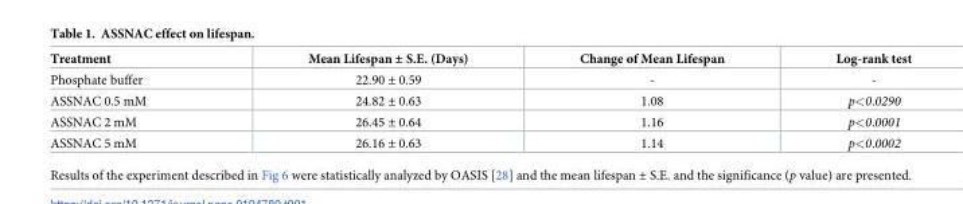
<table><thead><tr><td>Treatment</td><td>Mean Lifespan ± S.E. (Days)</td><td>Change of Mean Lifespan</td><td>Log-rank test</td></tr></thead><tbody><tr><td>Phosphate buffer</td><td>22.90 ± 0.59</td><td>-</td><td>-</td></tr><tr><td>ASSNAC 0.5 mM</td><td>24.82 ± 0.63</td><td>1.08</td><td>p&lt;0.0290</td></tr><tr><td>ASSNAC 2 mM</td><td>26.45 ± 0.64</td><td>1.16</td><td>p&lt;0.0001</td></tr><tr><td>ASSNAC 5 mM</td><td>26.16 ± 0.63</td><td>1.14</td><td>p&lt;0.0002</td></tr></tbody></table>